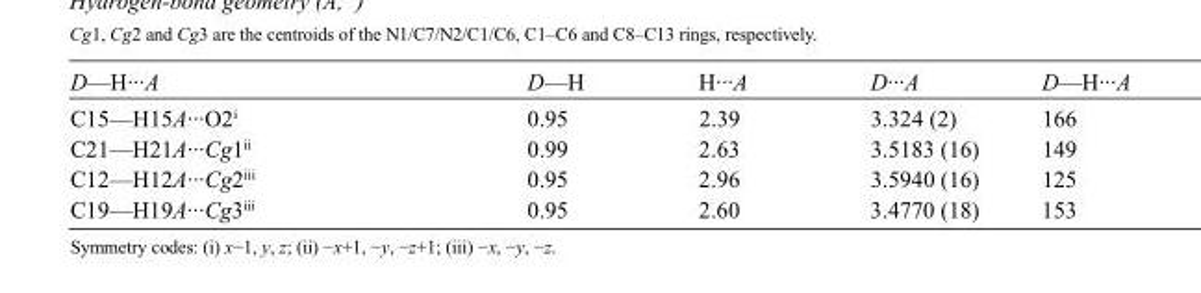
<table><tbody><tr><td>D—H···A</td><td>D—H</td><td>H···A</td><td>D···A</td><td>D—H···A</td></tr><tr><td>C15—H15A···O2<sup>i</sup></td><td>0.95</td><td>2.39</td><td>3.324 (2)</td><td>166</td></tr><tr><td>C21—H21A···Cg1<sup>ii</sup></td><td>0.99</td><td>2.63</td><td>3.5183 (16)</td><td>149</td></tr><tr><td>C12—H12A···Cg2<sup>iii</sup></td><td>0.95</td><td>2.96</td><td>3.5940 (16)</td><td>125</td></tr><tr><td>C19—H19A···Cg3<sup>iii</sup></td><td>0.95</td><td>2.60</td><td>3.4770 (18)</td><td>153</td></tr></tbody></table>